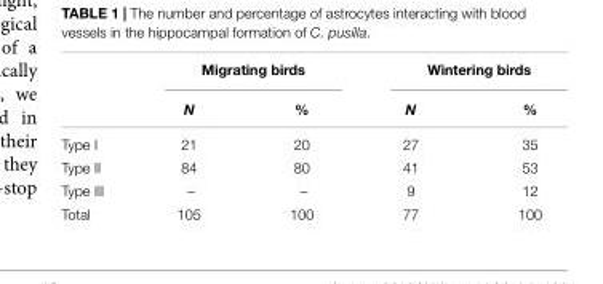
<table><thead><tr><td rowspan="2"></td><td colspan="2">Migrating birds</td><td colspan="2">Wintering birds</td></tr><tr><td>N</td><td>%</td><td>N</td><td>%</td></tr></thead><tbody><tr><td>Type I</td><td>21</td><td>20</td><td>27</td><td>35</td></tr><tr><td>Type II</td><td>84</td><td>80</td><td>41</td><td>53</td></tr><tr><td>Type III</td><td>–</td><td>–</td><td>9</td><td>12</td></tr><tr><td>Total</td><td>105</td><td>100</td><td>77</td><td>100</td></tr></tbody></table>